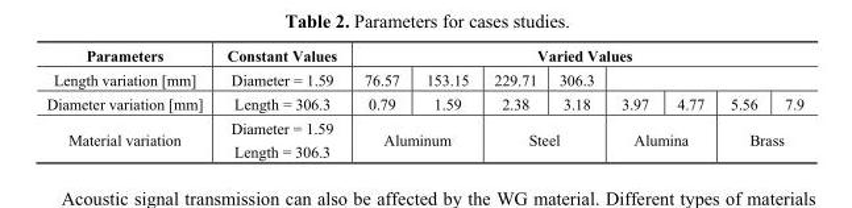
<table><thead><tr><td rowspan="3">Parameters Length variation [mm] Diameter variation [mm]</td><td rowspan="3">Constant Values Diameter = 1.59 Length = 306.3</td><td colspan="8">Varied Values</td></tr><tr><td rowspan="2">76.57 0.79</td><td rowspan="2">153.15 1.59</td><td rowspan="2">229.71 2.38</td><td rowspan="2">306.3 3.18</td><td colspan="4"></td></tr><tr><td>3.97</td><td>4.77</td><td>5.56</td><td>7.9</td></tr></thead><tbody><tr><td>Material variation</td><td>Diameter = 1.59 Length = 306.3</td><td colspan="2">Aluminum</td><td colspan="2">Steel</td><td colspan="2">Alumina</td><td colspan="2">Brass</td></tr></tbody></table>